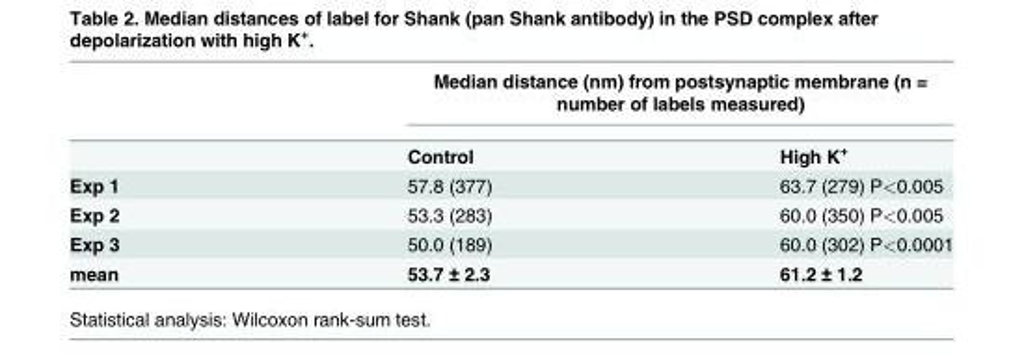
<table><thead><tr><td rowspan="2"></td><td colspan="2">Median distance (nm) from postsynaptic membrane (n = number of labels measured)</td></tr><tr><td>Control</td><td>High K<sup>+</sup></td></tr></thead><tbody><tr><td>Exp 1</td><td>57.8 (377)</td><td>63.7 (279) P&lt;0.005</td></tr><tr><td>Exp 2</td><td>53.3 (283)</td><td>60.0 (350) P&lt;0.005</td></tr><tr><td>Exp 3</td><td>50.0 (189)</td><td>60.0 (302) P&lt;0.0001</td></tr><tr><td>mean</td><td>53.7 ± 2.3</td><td>61.2 ± 1.2</td></tr></tbody></table>